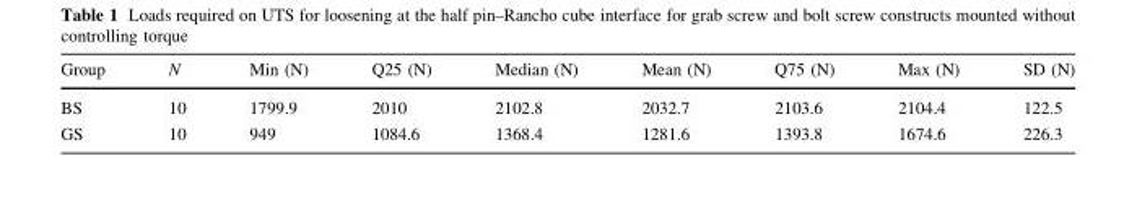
<table><thead><tr><td>Group</td><td>N</td><td>Min (N)</td><td>Q25 (N)</td><td>Median (N)</td><td>Mean (N)</td><td>Q75 (N)</td><td>Max (N)</td><td>SD (N)</td></tr></thead><tbody><tr><td>BS</td><td>10</td><td>1799.9</td><td>2010</td><td>2102.8</td><td>2032.7</td><td>2103.6</td><td>2104.4</td><td>122.5</td></tr><tr><td>GS</td><td>10</td><td>949</td><td>1084.6</td><td>1368.4</td><td>1281.6</td><td>1393.8</td><td>1674.6</td><td>226.3</td></tr></tbody></table>